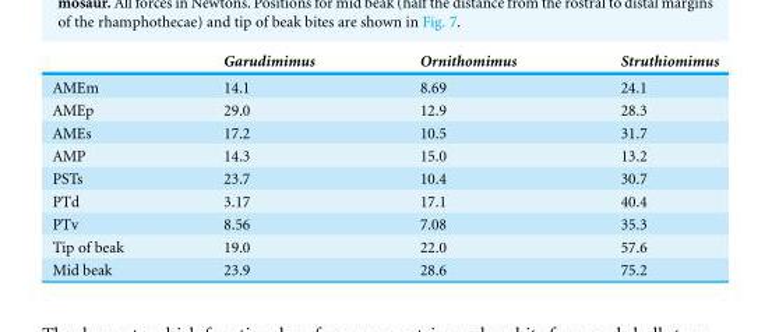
<table><thead><tr><td></td><td>Garudimimus</td><td>Ornithomimus</td><td>Struthiomimus</td></tr></thead><tbody><tr><td>AMEm</td><td>14.1</td><td>8.69</td><td>24.1</td></tr><tr><td>AMEp</td><td>29.0</td><td>12.9</td><td>28.3</td></tr><tr><td>AMEs</td><td>17.2</td><td>10.5</td><td>31.7</td></tr><tr><td>AMP</td><td>14.3</td><td>15.0</td><td>13.2</td></tr><tr><td>PSTs</td><td>23.7</td><td>10.4</td><td>30.7</td></tr><tr><td>PTd</td><td>3.17</td><td>17.1</td><td>40.4</td></tr><tr><td>PTv</td><td>8.56</td><td>7.08</td><td>35.3</td></tr><tr><td>Tip of beak</td><td>19.0</td><td>22.0</td><td>57.6</td></tr><tr><td>Mid beak</td><td>23.9</td><td>28.6</td><td>75.2</td></tr></tbody></table>